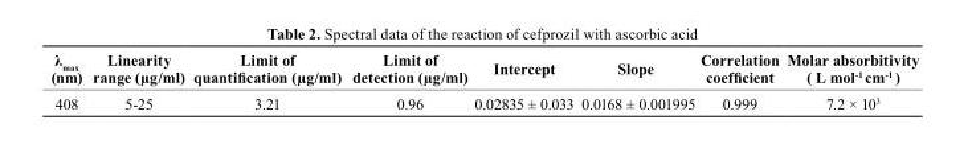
<table><thead><tr><td>λ<sub>max</sub> (nm)</td><td>Linearity range (µg/ml)</td><td>Limit of quantification (µg/ml)</td><td>Limit of detection (µg/ml)</td><td>Intercept</td><td>slope</td><td>correlation coefficient</td><td>Molar absorbitivity ( L mol<sup>-1</sup> cm<sup>-1</sup> )</td></tr></thead><tbody><tr><td>408</td><td>5-25</td><td>3.21</td><td>0.96</td><td>0.02835 ± 0.033</td><td>0.0168 ± 0.001995</td><td>0.999</td><td>7.2 × 10<sup>3</sup></td></tr></tbody></table>